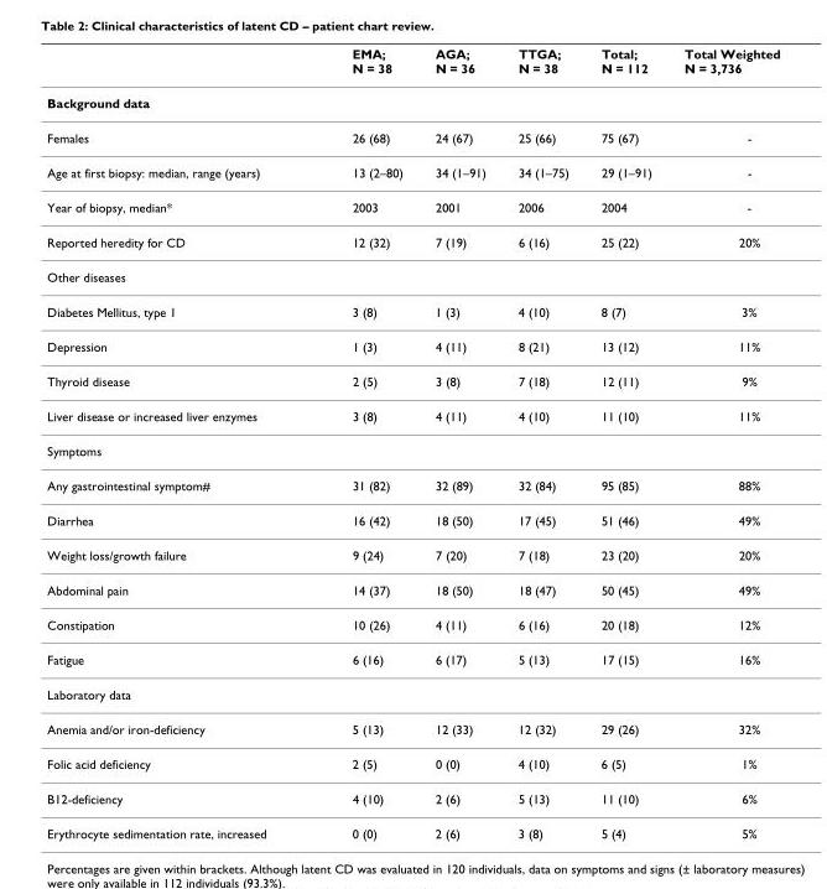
<table><thead><tr><td></td><td>EMA; N = 38</td><td>AGA; N = 36</td><td>TTGA; N = 38</td><td>Total; N = 112</td><td>Total Weighted N = 3,736</td></tr></thead><tbody><tr><td colspan="6">Background data</td></tr><tr><td>Females</td><td>26 (68)</td><td>24 (67)</td><td>25 (66)</td><td>75 (67)</td><td>-</td></tr><tr><td>Age at first biopsy: median, range (years)</td><td>13 (2–80)</td><td>34 (1–91)</td><td>34 (1–75)</td><td>29 (1–91)</td><td>-</td></tr><tr><td>Year of biopsy, median*</td><td>2003</td><td>2001</td><td>2006</td><td>2004</td><td>-</td></tr><tr><td>Reported heredity for CD</td><td>12 (32)</td><td>7 (19)</td><td>6 (16)</td><td>25 (22)</td><td>20%</td></tr><tr><td colspan="6">Other diseases</td></tr><tr><td>Diabetes Mellitus, type 1</td><td>3 (8)</td><td>1 (3)</td><td>4 (10)</td><td>8 (7)</td><td>3%</td></tr><tr><td>Depression</td><td>1 (3)</td><td>4 (11)</td><td>8 (21)</td><td>13 (12)</td><td>11%</td></tr><tr><td>Thyroid disease</td><td>2 (5)</td><td>3 (8)</td><td>7 (18)</td><td>12 (11)</td><td>9%</td></tr><tr><td>Liver disease or increased liver enzymes</td><td>3 (8)</td><td>4 (11)</td><td>4 (10)</td><td>11 (10)</td><td>11%</td></tr><tr><td colspan="6">Symptoms</td></tr><tr><td>Any gastrointestinal symptom#</td><td>31 (82)</td><td>32 (89)</td><td>32 (84)</td><td>95 (85)</td><td>88%</td></tr><tr><td>Diarrhea</td><td>16 (42)</td><td>18 (50)</td><td>17 (45)</td><td>51 (46)</td><td>49%</td></tr><tr><td>Weight loss/growth failure</td><td>9 (24)</td><td>7 (20)</td><td>7 (18)</td><td>23 (20)</td><td>20%</td></tr><tr><td>Abdominal pain</td><td>14 (37)</td><td>18 (50)</td><td>18 (47)</td><td>50 (45)</td><td>49%</td></tr><tr><td>Constipation</td><td>10 (26)</td><td>4 (11)</td><td>6 (16)</td><td>20 (18)</td><td>12%</td></tr><tr><td>Fatigue</td><td>6 (16)</td><td>6 (17)</td><td>5 (13)</td><td>17 (15)</td><td>16%</td></tr><tr><td colspan="6">Laboratory data</td></tr><tr><td>Anemia and/or iron-deficiency</td><td>5 (13)</td><td>12 (33)</td><td>12 (32)</td><td>29 (26)</td><td>32%</td></tr><tr><td>Folic acid deficiency</td><td>2 (5)</td><td>0 (0)</td><td>4 (10)</td><td>6 (5)</td><td>1%</td></tr><tr><td>B12-deficiency</td><td>4 (10)</td><td>2 (6)</td><td>5 (13)</td><td>11 (10)</td><td>6%</td></tr><tr><td>Erythrocyte sedimentation rate, increased</td><td>0 (0)</td><td>2 (6)</td><td>3 (8)</td><td>5 (4)</td><td>5%</td></tr></tbody></table>